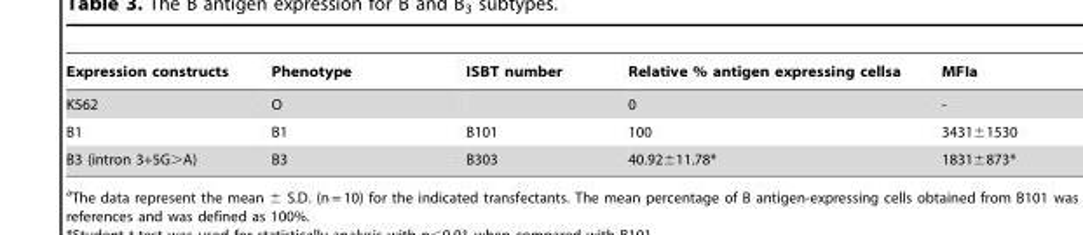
<table><thead><tr><td>Expression constructs</td><td>Phenotype</td><td>ISBT number</td><td>Relative % antigen expressing cellsa</td><td>MFIa</td></tr></thead><tbody><tr><td>K562</td><td>O</td><td></td><td>0</td><td>-</td></tr><tr><td>B1</td><td>B1</td><td>B101</td><td>100</td><td>3431±1530</td></tr><tr><td>B3 (intron 3+5G&gt;A)</td><td>B3</td><td>B303</td><td>40.92±11.78*</td><td>1831±873*</td></tr></tbody></table>